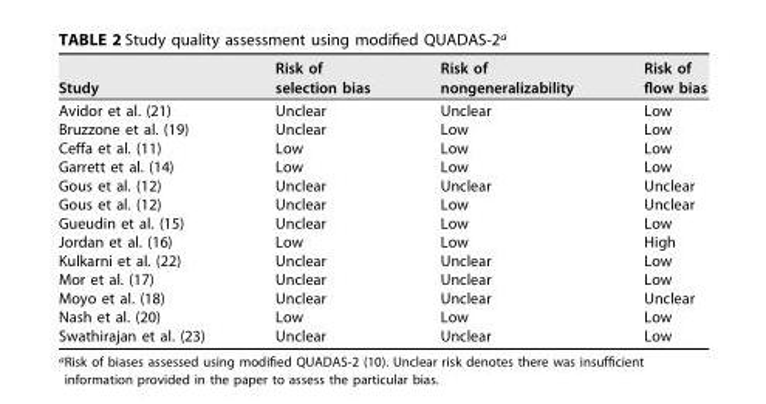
<table><thead><tr><td>Study</td><td>Risk of selection bias</td><td>Risk of nongeneralizability</td><td>Risk of flow bias</td></tr></thead><tbody><tr><td>Avidor et al. (21)</td><td>Unclear</td><td>Unclear</td><td>Low</td></tr><tr><td>Bruzzone et al. (19)</td><td>Unclear</td><td>Low</td><td>Low</td></tr><tr><td>Ceffa et al. (11)</td><td>Low</td><td>Low</td><td>Low</td></tr><tr><td>Garrett et al. (14)</td><td>Low</td><td>Low</td><td>Low</td></tr><tr><td>Gous et al. (12)</td><td>Unclear</td><td>Unclear</td><td>Unclear</td></tr><tr><td>Gous et al. (12)</td><td>Unclear</td><td>Low</td><td>Unclear</td></tr><tr><td>Gueudin et al. (15)</td><td>Unclear</td><td>Low</td><td>Low</td></tr><tr><td>Jordan et al. (16)</td><td>Low</td><td>Low</td><td>High</td></tr><tr><td>Kulkarni et al. (22)</td><td>Unclear</td><td>Unclear</td><td>Low</td></tr><tr><td>Mor et al. (17)</td><td>Unclear</td><td>Unclear</td><td>Low</td></tr><tr><td>Moyo et al. (18)</td><td>Unclear</td><td>Unclear</td><td>Unclear</td></tr><tr><td>Nash et al. (20)</td><td>Low</td><td>Low</td><td>Low</td></tr><tr><td>Swathirajan et al. (23)</td><td>Unclear</td><td>Unclear</td><td>Low</td></tr></tbody></table>